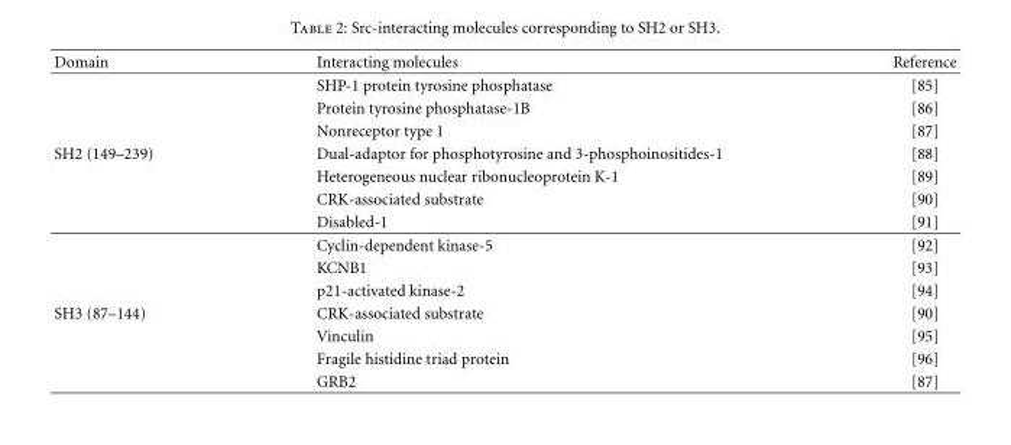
<table><thead><tr><td>Domain</td><td>Interacting molecules</td><td>Reference</td></tr></thead><tbody><tr><td></td><td>SHP-1 protein tyrosine phosphatase</td><td>[85]</td></tr><tr><td></td><td>Protein tyrosine phosphatase-1B</td><td>[86]</td></tr><tr><td></td><td>Nonreceptor type 1</td><td>[87]</td></tr><tr><td rowspan="7">SH2 (149–239)</td><td>Dual-adaptor for phosphotyrosine and 3-phosphoinositides-1</td><td>[88]</td></tr><tr><td>Heterogeneous nuclear ribonucleoprotein K-1</td><td>[89]</td></tr><tr><td>CRK-associated substrate</td><td>[90]</td></tr><tr><td>Disabled-1</td><td>[91]</td></tr><tr><td>Cyclin-dependent kinase-5</td><td>[92]</td></tr><tr><td>KCNB1</td><td>[93]</td></tr><tr><td>p21-activated kinase-2</td><td>[94]</td></tr><tr><td rowspan="4">SH3 (87–144)</td><td>CRK-associated substrate</td><td>[90]</td></tr><tr><td>Vinculin</td><td>[95]</td></tr><tr><td>Fragile histidine triad protein</td><td>[96]</td></tr><tr><td>GRB2</td><td>[87]</td></tr></tbody></table>